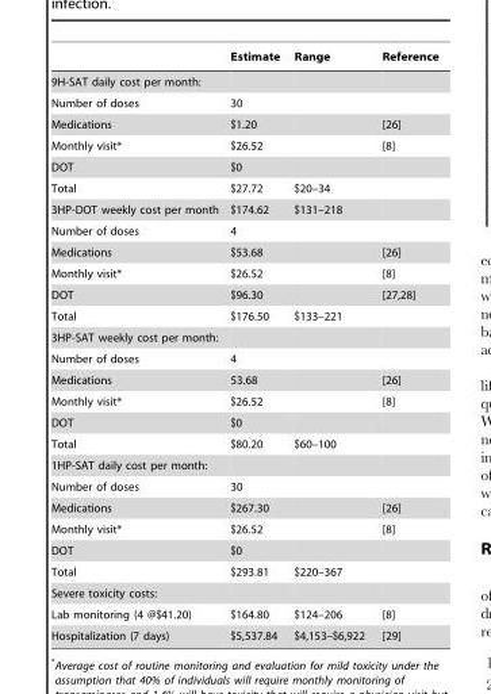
<table><thead><tr><td></td><td>Estimate</td><td>Range</td><td>Reference</td></tr></thead><tbody><tr><td colspan="4">9H-SAT daily cost per month:</td></tr><tr><td>Number of doses</td><td>30</td><td></td><td></td></tr><tr><td>Medications</td><td>$1.20</td><td></td><td>[26]</td></tr><tr><td>Monthly visit*</td><td>$26.52</td><td></td><td>[8]</td></tr><tr><td>DOT</td><td>$0</td><td></td><td></td></tr><tr><td>Total</td><td>$27.72</td><td>$20–34</td><td></td></tr><tr><td>3HP-DOT weekly cost per month</td><td>$174.62</td><td>$131–218</td><td></td></tr><tr><td>Number of doses</td><td>4</td><td></td><td></td></tr><tr><td>Medications</td><td>$53.68</td><td></td><td>[26]</td></tr><tr><td>Monthly visit*</td><td>$26.52</td><td></td><td>[8]</td></tr><tr><td>DOT</td><td>$96.30</td><td></td><td>[27,28]</td></tr><tr><td>Total</td><td>$176.50</td><td>$133–221</td><td></td></tr><tr><td colspan="4">3HP-SAT weekly cost per month:</td></tr><tr><td>Number of doses</td><td>4</td><td></td><td></td></tr><tr><td>Medications</td><td>53.68</td><td></td><td>[26]</td></tr><tr><td>Monthly visit*</td><td>$26.52</td><td></td><td>[8]</td></tr><tr><td>DOT</td><td>$0</td><td></td><td></td></tr><tr><td>Total</td><td>$80.20</td><td>$60–100</td><td></td></tr><tr><td colspan="4">1HP-SAT daily cost per month:</td></tr><tr><td>Number of doses</td><td>30</td><td></td><td></td></tr><tr><td>Medications</td><td>$267.30</td><td></td><td>[26]</td></tr><tr><td>Monthly visit*</td><td>$26.52</td><td></td><td>[8]</td></tr><tr><td>DOT</td><td>$0</td><td></td><td></td></tr><tr><td>Total</td><td>$293.81</td><td>$220–367</td><td></td></tr><tr><td colspan="4">Severe toxicity costs:</td></tr><tr><td>Lab monitoring (4 @$41.20)</td><td>$164.80</td><td>$124–206</td><td>[8]</td></tr><tr><td>Hospitalization (7 days)</td><td>$5,537.84</td><td>$4,153–$6,922</td><td>[29]</td></tr></tbody></table>